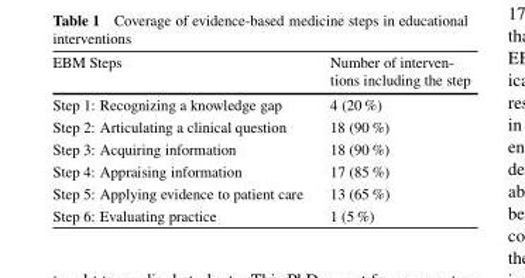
<table><thead><tr><td>EBM Steps</td><td>Number of interven- tions including the step</td></tr></thead><tbody><tr><td>Step 1: Recognizing a knowledge gap</td><td>4 (20 %)</td></tr><tr><td>Step 2: Articulating a clinical question</td><td>18 (90 %)</td></tr><tr><td>Step 3: Acquiring information</td><td>18 (90 %)</td></tr><tr><td>Step 4: Appraising information</td><td>17 (85 %)</td></tr><tr><td>Step 5: Applying evidence to patient care</td><td>13 (65 %)</td></tr><tr><td>Step 6: Evaluating practice</td><td>1 (5 %)</td></tr></tbody></table>